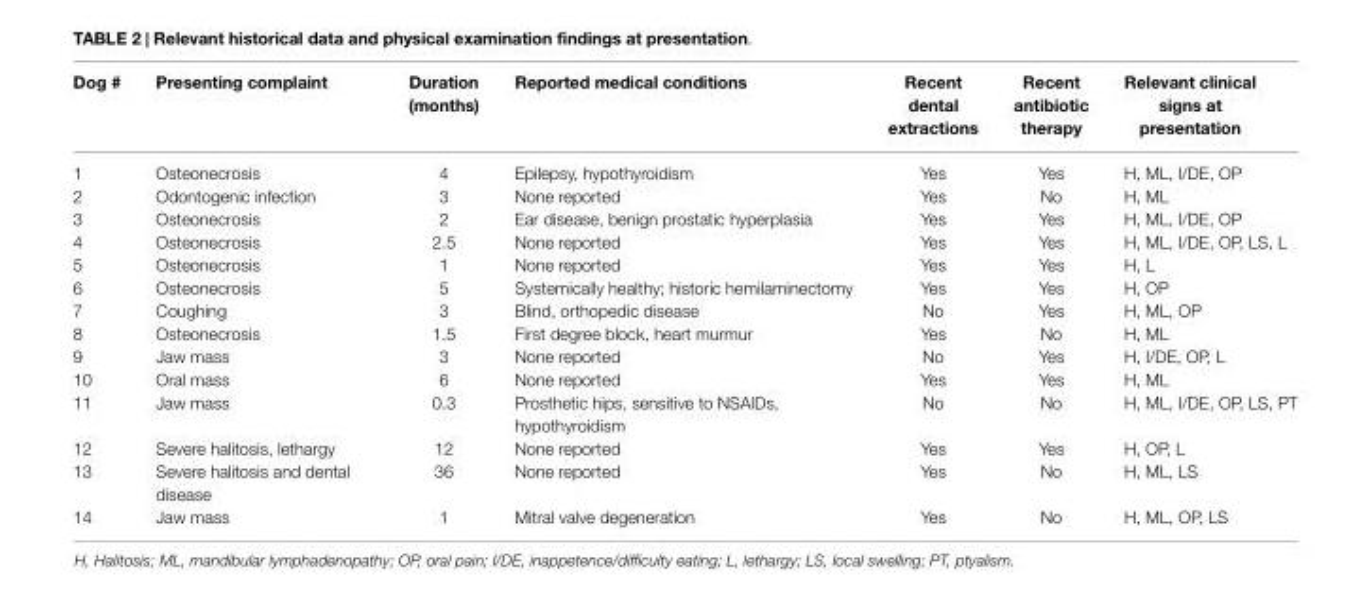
<table><thead><tr><td>Dog #</td><td>Presenting complaint</td><td>Duration (months)</td><td>Reported medical conditions</td><td>Recent dental extractions</td><td>Recent antibiotic therapy</td><td>Relevant clinical signs at presentation</td></tr></thead><tbody><tr><td>1</td><td>Osteonecrosis</td><td>4</td><td>Epilepsy, hypothyroidism</td><td>Yes</td><td>Yes</td><td>H, ML, I/DE, OP</td></tr><tr><td>2</td><td>Odontogenic infection</td><td>3</td><td>None reported</td><td>Yes</td><td>No</td><td>H, ML</td></tr><tr><td>3</td><td>Osteonecrosis</td><td>2</td><td>Ear disease, benign prostatic hyperplasia</td><td>Yes</td><td>Yes</td><td>H, ML, I/DE, OP</td></tr><tr><td>4</td><td>Osteonecrosis</td><td>2.5</td><td>None reported</td><td>Yes</td><td>Yes</td><td>H, ML, I/DE, OP, LS, L</td></tr><tr><td>5</td><td>Osteonecrosis</td><td>1</td><td>None reported</td><td>Yes</td><td>Yes</td><td>H, L</td></tr><tr><td>6</td><td>Osteonecrosis</td><td>5</td><td>Systemically healthy; historic hemilaminectomy</td><td>Yes</td><td>Yes</td><td>H, OP</td></tr><tr><td>7</td><td>Coughing</td><td>3</td><td>Blind, orthopedic disease</td><td>No</td><td>Yes</td><td>H, ML, OP</td></tr><tr><td>8</td><td>Osteonecrosis</td><td>1.5</td><td>First degree block, heart murmur</td><td>Yes</td><td>No</td><td>H, ML</td></tr><tr><td>9</td><td>Jaw mass</td><td>3</td><td>None reported</td><td>No</td><td>Yes</td><td>H, I/DE, OP, L</td></tr><tr><td>10</td><td>Oral mass</td><td>6</td><td>None reported</td><td>Yes</td><td>Yes</td><td>H, ML</td></tr><tr><td>11</td><td>Jaw mass</td><td>0.3</td><td>Prosthetic hips, sensitive to NSAIDs, hypothyroidism</td><td>No</td><td>No</td><td>H, ML, I/DE, OP, LS, PT</td></tr><tr><td>12</td><td>Severe halitosis, lethargy</td><td>12</td><td>None reported</td><td>Yes</td><td>Yes</td><td>H, OP, L</td></tr><tr><td>13</td><td>Severe halitosis and dental disease</td><td>36</td><td>None reported</td><td>Yes</td><td>No</td><td>H, ML, LS</td></tr><tr><td>14</td><td>Jaw mass</td><td>1</td><td>Mitral valve degeneration</td><td>Yes</td><td>No</td><td>H, ML, OP, LS</td></tr></tbody></table>